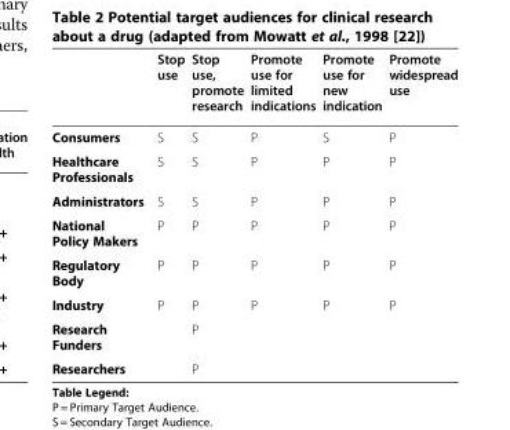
<table><thead><tr><td></td><td>Stop use</td><td>Stop use, promote research</td><td>Promote use for limited indications</td><td>Promote use for new indication</td><td>Promote widespread use</td></tr></thead><tbody><tr><td>Consumers</td><td>S</td><td>S</td><td>P</td><td>S</td><td>P</td></tr><tr><td>Healthcare Professionals</td><td>S</td><td>S</td><td>P</td><td>P</td><td>P</td></tr><tr><td>Administrators</td><td>S</td><td>S</td><td>P</td><td>P</td><td>P</td></tr><tr><td>National Policy Makers</td><td>P</td><td>P</td><td>P</td><td>P</td><td>P</td></tr><tr><td>Regulatory Body</td><td>P</td><td>P</td><td>P</td><td>P</td><td>P</td></tr><tr><td>Industry</td><td>P</td><td>P</td><td>P</td><td>P</td><td>P</td></tr><tr><td>Research Funders</td><td></td><td>P</td><td></td><td></td><td></td></tr><tr><td>Researchers</td><td></td><td>P</td><td></td><td></td><td></td></tr></tbody></table>